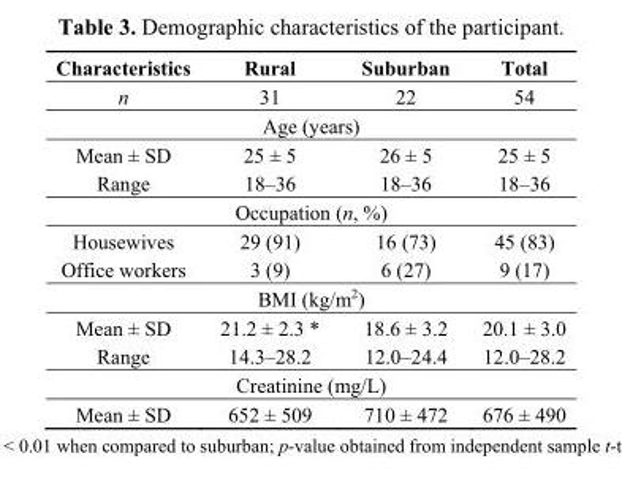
<table><thead><tr><td>Characteristics</td><td>Rural</td><td>Suburban</td><td>Total</td></tr></thead><tbody><tr><td>n</td><td>31</td><td>22</td><td>54</td></tr><tr><td colspan="4">Age (years)</td></tr><tr><td>Mean ± SD</td><td>25 ± 5</td><td>26 ± 5</td><td>25 ± 5</td></tr><tr><td>Range</td><td>18–36</td><td>18–36</td><td>18–36</td></tr><tr><td colspan="4">Occupation (n, %)</td></tr><tr><td>Housewives</td><td>29 (91)</td><td>16 (73)</td><td>45 (83)</td></tr><tr><td>Office workers</td><td>3 (9)</td><td>6 (27)</td><td>9 (17)</td></tr><tr><td colspan="4">BMI (kg/m<sup>2</sup>)</td></tr><tr><td>Mean ± SD</td><td>21.2 ± 2.3 *</td><td>18.6 ± 3.2</td><td>20.1 ± 3.0</td></tr><tr><td>Range</td><td>14.3–28.2</td><td>12.0–24.4</td><td>12.0–28.2</td></tr><tr><td colspan="4">Creatinine (mg/L)</td></tr><tr><td>Mean ± SD</td><td>652 ± 509</td><td>710 ± 472</td><td>676 ± 490</td></tr></tbody></table>